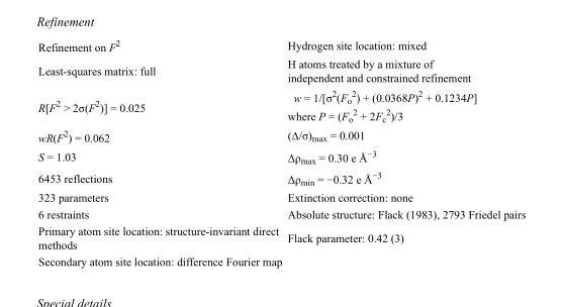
<table><tbody><tr><td>Refinement on F<sup>2</sup></td><td>Hydrogen site location: mixed</td></tr><tr><td>Least-squares matrix: full</td><td>H atoms treated by a mixture of independent and constrained refinement</td></tr><tr><td>R[F<sup>2</sup> &gt; 2σ(F<sup>2</sup>)] = 0.025</td><td>w = 1/[σ<sup>2</sup>(F<sub>o</sub> <sup>2</sup>) + (0.0368P)<sup>2</sup> + 0.1234P] where P = (F<sub>o</sub> <sup>2</sup> + 2F<sub>c</sub> <sup>2</sup>)/3</td></tr><tr><td>wR(F<sup>2</sup>) = 0.062</td><td>(Δ/σ)<sub>max</sub> = 0.001</td></tr><tr><td>S = 1.03</td><td>Δρ<sub>max</sub> = 0.30 e Å<sup>−3</sup></td></tr><tr><td>6453 reflections</td><td>Δρ<sub>min</sub> = −0.32 e Å<sup>−3</sup></td></tr><tr><td>323 parameters</td><td>Extinction correction: none</td></tr><tr><td>6 restraints</td><td>Absolute structure: Flack (1983), 2793 Friedel pairs</td></tr><tr><td>Primary atom site location: structure-invariant direct methods</td><td>Flack parameter: 0.42 (3)</td></tr><tr><td>Secondary atom site location: difference Fourier map</td><td></td></tr></tbody></table>